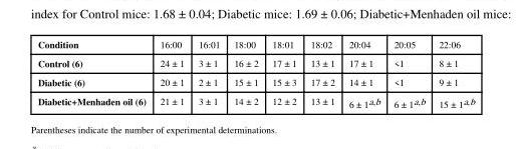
<table><tbody><tr><td>Condition</td><td>16:00</td><td>16:01</td><td>18:00</td><td>18:01</td><td>18:02</td><td>20:04</td><td>20:05</td><td>22:06</td></tr><tr><td>Control (6)</td><td>24 ± 1</td><td>3 ± 1</td><td>16 ± 2</td><td>17 ± 1</td><td>13 ± 1</td><td>17 ± 1</td><td>&lt;1</td><td>8 ± 1</td></tr><tr><td>Diabetic (6)</td><td>20 ± 1</td><td>2 ± 1</td><td>15 ± 1</td><td>15 ± 3</td><td>17 ± 2</td><td>14 ± 1</td><td>&lt;1</td><td>9 ± 1</td></tr><tr><td>Diabetic+Menhaden oil (6)</td><td>21 ± 1</td><td>3 ± 1</td><td>14 ± 2</td><td>12 ± 2</td><td>13 ± 1</td><td>6 ± 1<sup>a</sup>,<sup>b</sup></td><td>6 ± 1<sup>a</sup>,<sup>b</sup></td><td>15 ± 1<sup>a</sup>,<sup>b</sup></td></tr></tbody></table>